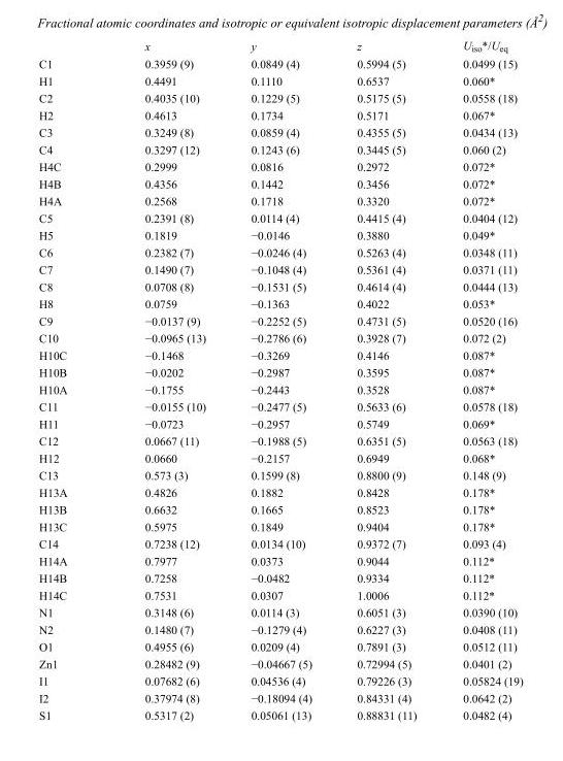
<table><thead><tr><td></td><td>x</td><td>y</td><td>z</td><td>U<sub>iso</sub>*/U<sub>eq</sub></td></tr></thead><tbody><tr><td>C1</td><td>0.3959 (9)</td><td>0.0849 (4)</td><td>0.5994 (5)</td><td>0.0499 (15)</td></tr><tr><td>H1</td><td>0.4491</td><td>0.1110</td><td>0.6537</td><td>0.060*</td></tr><tr><td>C2</td><td>0.4035 (10)</td><td>0.1229 (5)</td><td>0.5175 (5)</td><td>0.0558 (18)</td></tr><tr><td>H2</td><td>0.4613</td><td>0.1734</td><td>0.5171</td><td>0.067*</td></tr><tr><td>C3</td><td>0.3249 (8)</td><td>0.0859 (4)</td><td>0.4355 (5)</td><td>0.0434 (13)</td></tr><tr><td>C4</td><td>0.3297 (12)</td><td>0.1243 (6)</td><td>0.3445 (5)</td><td>0.060 (2)</td></tr><tr><td>H4C</td><td>0.2999</td><td>0.0816</td><td>0.2972</td><td>0.072*</td></tr><tr><td>H4B</td><td>0.4356</td><td>0.1442</td><td>0.3456</td><td>0.072*</td></tr><tr><td>H4A</td><td>0.2568</td><td>0.1718</td><td>0.3320</td><td>0.072*</td></tr><tr><td>C5</td><td>0.2391 (8)</td><td>0.0114 (4)</td><td>0.4415 (4)</td><td>0.0404 (12)</td></tr><tr><td>H5</td><td>0.1819</td><td>−0.0146</td><td>0.3880</td><td>0.049*</td></tr><tr><td>C6</td><td>0.2382 (7)</td><td>−0.0246 (4)</td><td>0.5263 (4)</td><td>0.0348 (11)</td></tr><tr><td>C7</td><td>0.1490 (7)</td><td>−0.1048 (4)</td><td>0.5361 (4)</td><td>0.0371 (11)</td></tr><tr><td>C8</td><td>0.0708 (8)</td><td>−0.1531 (5)</td><td>0.4614 (4)</td><td>0.0444 (13)</td></tr><tr><td>H8</td><td>0.0759</td><td>−0.1363</td><td>0.4022</td><td>0.053*</td></tr><tr><td>C9</td><td>−0.0137 (9)</td><td>−0.2252 (5)</td><td>0.4731 (5)</td><td>0.0520 (16)</td></tr><tr><td>C10</td><td>−0.0965 (13)</td><td>−0.2786 (6)</td><td>0.3928 (7)</td><td>0.072 (2)</td></tr><tr><td>H10C</td><td>−0.1468</td><td>−0.3269</td><td>0.4146</td><td>0.087*</td></tr><tr><td>H10B</td><td>−0.0202</td><td>−0.2987</td><td>0.3595</td><td>0.087*</td></tr><tr><td>H10A</td><td>−0.1755</td><td>−0.2443</td><td>0.3528</td><td>0.087*</td></tr><tr><td>C11</td><td>−0.0155 (10)</td><td>−0.2477 (5)</td><td>0.5633 (6)</td><td>0.0578 (18)</td></tr><tr><td>H11</td><td>−0.0723</td><td>−0.2957</td><td>0.5749</td><td>0.069*</td></tr><tr><td>C12</td><td>0.0667 (11)</td><td>−0.1988 (5)</td><td>0.6351 (5)</td><td>0.0563 (18)</td></tr><tr><td>H12</td><td>0.0660</td><td>−0.2157</td><td>0.6949</td><td>0.068*</td></tr><tr><td>C13</td><td>0.573 (3)</td><td>0.1599 (8)</td><td>0.8800 (9)</td><td>0.148 (9)</td></tr><tr><td>H13A</td><td>0.4826</td><td>0.1882</td><td>0.8428</td><td>0.178*</td></tr><tr><td>H13B</td><td>0.6632</td><td>0.1665</td><td>0.8523</td><td>0.178*</td></tr><tr><td>H13C</td><td>0.5975</td><td>0.1849</td><td>0.9404</td><td>0.178*</td></tr><tr><td>C14</td><td>0.7238 (12)</td><td>0.0134 (10)</td><td>0.9372 (7)</td><td>0.093 (4)</td></tr><tr><td>H14A</td><td>0.7977</td><td>0.0373</td><td>0.9044</td><td>0.112*</td></tr><tr><td>H14B</td><td>0.7258</td><td>−0.0482</td><td>0.9334</td><td>0.112*</td></tr><tr><td>H14C</td><td>0.7531</td><td>0.0307</td><td>1.0006</td><td>0.112*</td></tr><tr><td>N1</td><td>0.3148 (6)</td><td>0.0114 (3)</td><td>0.6051 (3)</td><td>0.0390 (10)</td></tr><tr><td>N2</td><td>0.1480 (7)</td><td>−0.1279 (4)</td><td>0.6227 (3)</td><td>0.0408 (11)</td></tr><tr><td>O1</td><td>0.4955 (6)</td><td>0.0209 (4)</td><td>0.7891 (3)</td><td>0.0512 (11)</td></tr><tr><td>Zn1</td><td>0.28482 (9)</td><td>−0.04667 (5)</td><td>0.72994 (5)</td><td>0.0401 (2)</td></tr><tr><td>I1</td><td>0.07682 (6)</td><td>0.04536 (4)</td><td>0.79226 (3)</td><td>0.05824 (19)</td></tr><tr><td>I2</td><td>0.37974 (8)</td><td>−0.18094 (4)</td><td>0.84331 (4)</td><td>0.0642 (2)</td></tr><tr><td>S1</td><td>0.5317 (2)</td><td>0.05061 (13)</td><td>0.88831 (11)</td><td>0.0482 (4)</td></tr></tbody></table>